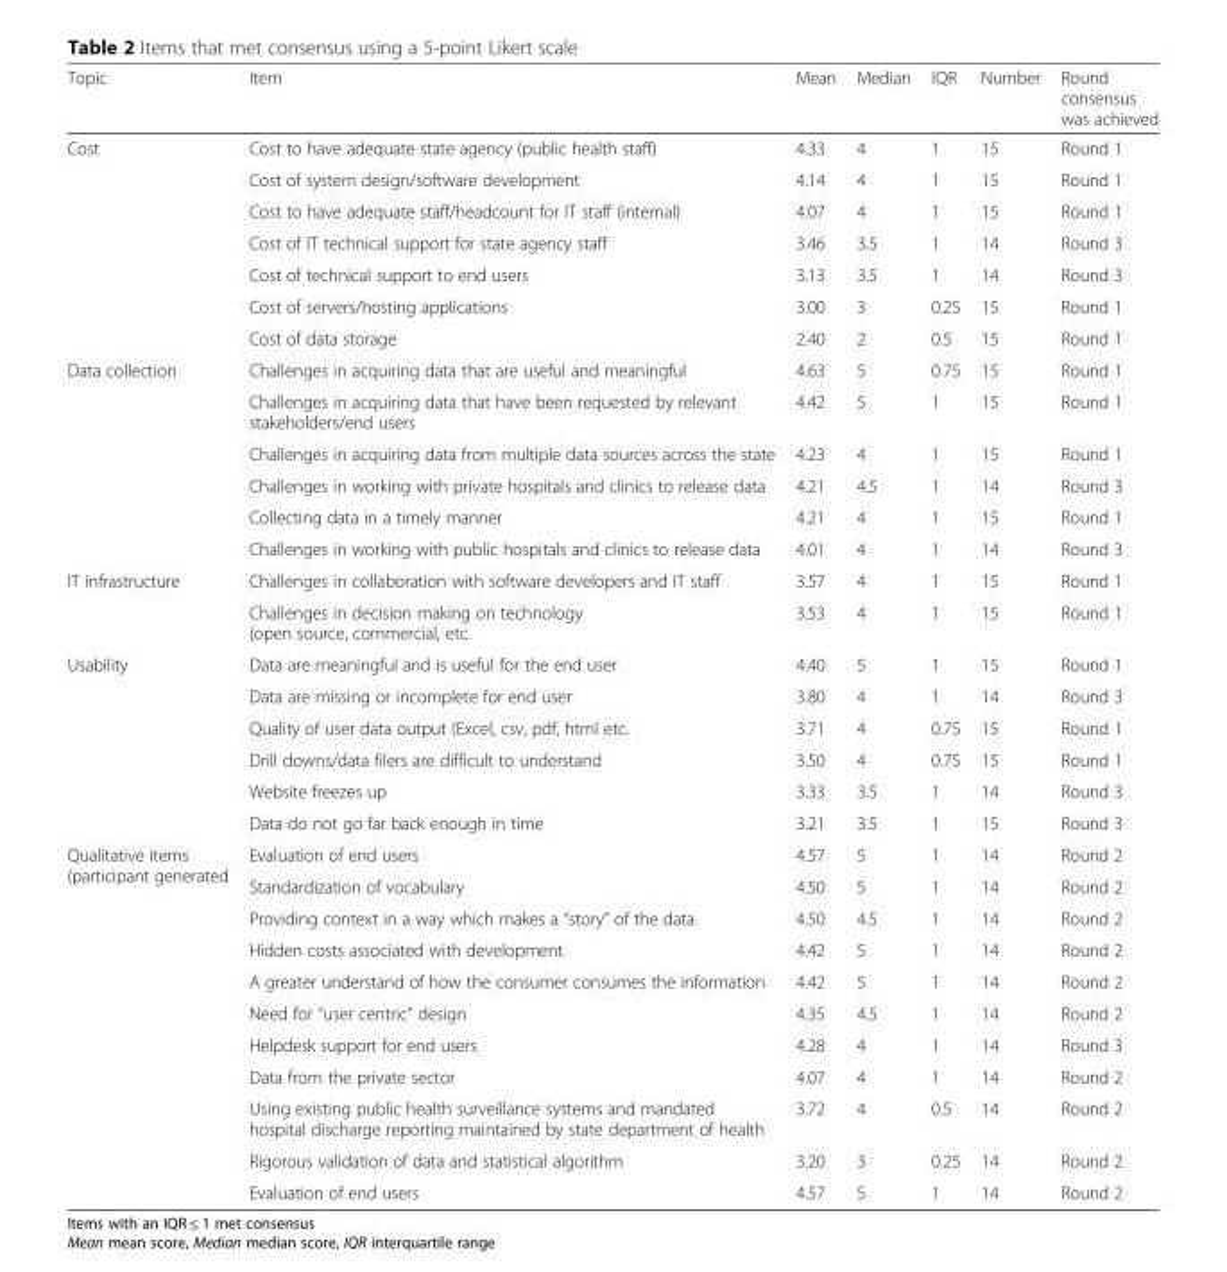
<table><thead><tr><td>Topic</td><td>Item</td><td>Mean</td><td>Median</td><td>IQR</td><td>Number</td><td>Round consensus was achieved</td></tr></thead><tbody><tr><td rowspan="7">Cost</td><td>Cost to have adequate state agency (public health staff)</td><td>4.33</td><td>4</td><td>1</td><td>15</td><td>Round 1</td></tr><tr><td>Cost of system design/software development</td><td>4.14</td><td>4</td><td>1</td><td>15</td><td>Round 1</td></tr><tr><td>Cost to have adequate staff/headcount for IT staff (internal)</td><td>4.07</td><td>4</td><td>1</td><td>15</td><td>Round 1</td></tr><tr><td>Cost of IT technical support for state agency staff</td><td>3.46</td><td>3.5</td><td>1</td><td>14</td><td>Round 3</td></tr><tr><td>Cost of technical support to end users</td><td>3.13</td><td>3.5</td><td>1</td><td>14</td><td>Round 3</td></tr><tr><td>Cost of servers/hosting applications</td><td>3.00</td><td>3</td><td>0.25</td><td>15</td><td>Round 1</td></tr><tr><td>Cost of data storage</td><td>2.40</td><td>2</td><td>0.5</td><td>15</td><td>Round 1</td></tr><tr><td rowspan="6">Data collection</td><td>Challenges in acquiring data that are useful and meaningful</td><td>4.63</td><td>5</td><td>0.75</td><td>15</td><td>Round 1</td></tr><tr><td>Challenges in acquiring data that have been requested by relevant stakeholders/end users</td><td>4.42</td><td>5</td><td>1</td><td>15</td><td>Round 1</td></tr><tr><td>Challenges in acquiring data from multiple data sources across the state</td><td>4.23</td><td>4</td><td>1</td><td>15</td><td>Round 1</td></tr><tr><td>Challenges in working with private hospitals and clinics to release data</td><td>4.21</td><td>4.5</td><td>1</td><td>14</td><td>Round 3</td></tr><tr><td>Collecting data in a timely manner</td><td>4.21</td><td>4</td><td>1</td><td>15</td><td>Round 1</td></tr><tr><td>Challenges in working with public hospitals and clinics to release data</td><td>4.01</td><td>4</td><td>1</td><td>14</td><td>Round 3</td></tr><tr><td rowspan="2">IT infrastructure</td><td>Challenges in collaboration with software developers and IT staff</td><td>3.57</td><td>4</td><td>1</td><td>15</td><td>Round 1</td></tr><tr><td>Challenges in decision making on technology (open source, commercial, etc.</td><td>3.53</td><td>4</td><td>1</td><td>15</td><td>Round 1</td></tr><tr><td rowspan="6">Usability</td><td>Data are meaningful and is useful for the end user</td><td>4.40</td><td>5</td><td>1</td><td>15</td><td>Round 1</td></tr><tr><td>Data are missing or incomplete for end user</td><td>3.80</td><td>4</td><td>1</td><td>14</td><td>Round 3</td></tr><tr><td>Quality of user data output (Excel, csv, pdf, html etc.</td><td>3.71</td><td>4</td><td>0.75</td><td>15</td><td>Round 1</td></tr><tr><td>Drill downs/data filers are difficult to understand</td><td>3.50</td><td>4</td><td>0.75</td><td>15</td><td>Round 1</td></tr><tr><td>Website freezes up</td><td>3.33</td><td>3.5</td><td>1</td><td>14</td><td>Round 3</td></tr><tr><td>Data do not go far back enough in time</td><td>3.21</td><td>3.5</td><td>1</td><td>15</td><td>Round 3</td></tr><tr><td rowspan="11">Qualitative items (participant generated</td><td>Evaluation of end users</td><td>4.57</td><td>5</td><td>1</td><td>14</td><td>Round 2</td></tr><tr><td>Standardization of vocabulary</td><td>4.50</td><td>5</td><td>1</td><td>14</td><td>Round 2</td></tr><tr><td>Providing context in a way which makes a “story” of the data</td><td>4.50</td><td>4.5</td><td>1</td><td>14</td><td>Round 2</td></tr><tr><td>Hidden costs associated with development</td><td>4.42</td><td>5</td><td>1</td><td>14</td><td>Round 2</td></tr><tr><td>A greater understand of how the consumer consumes the information</td><td>4.42</td><td>5</td><td>1</td><td>14</td><td>Round 2</td></tr><tr><td>Need for “user centric” design</td><td>4.35</td><td>4.5</td><td>1</td><td>14</td><td>Round 2</td></tr><tr><td>Helpdesk support for end users</td><td>4.28</td><td>4</td><td>1</td><td>14</td><td>Round 3</td></tr><tr><td>Data from the private sector</td><td>4.07</td><td>4</td><td>1</td><td>14</td><td>Round 2</td></tr><tr><td>Using existing public health surveillance systems and mandated hospital discharge reporting maintained by state department of health</td><td>3.72</td><td>4</td><td>0.5</td><td>14</td><td>Round 2</td></tr><tr><td>Rigorous validation of data and statistical algorithm</td><td>3.20</td><td>3</td><td>0.25</td><td>14</td><td>Round 2</td></tr><tr><td>Evaluation of end users</td><td>4.57</td><td>5</td><td>1</td><td>14</td><td>Round 2</td></tr></tbody></table>